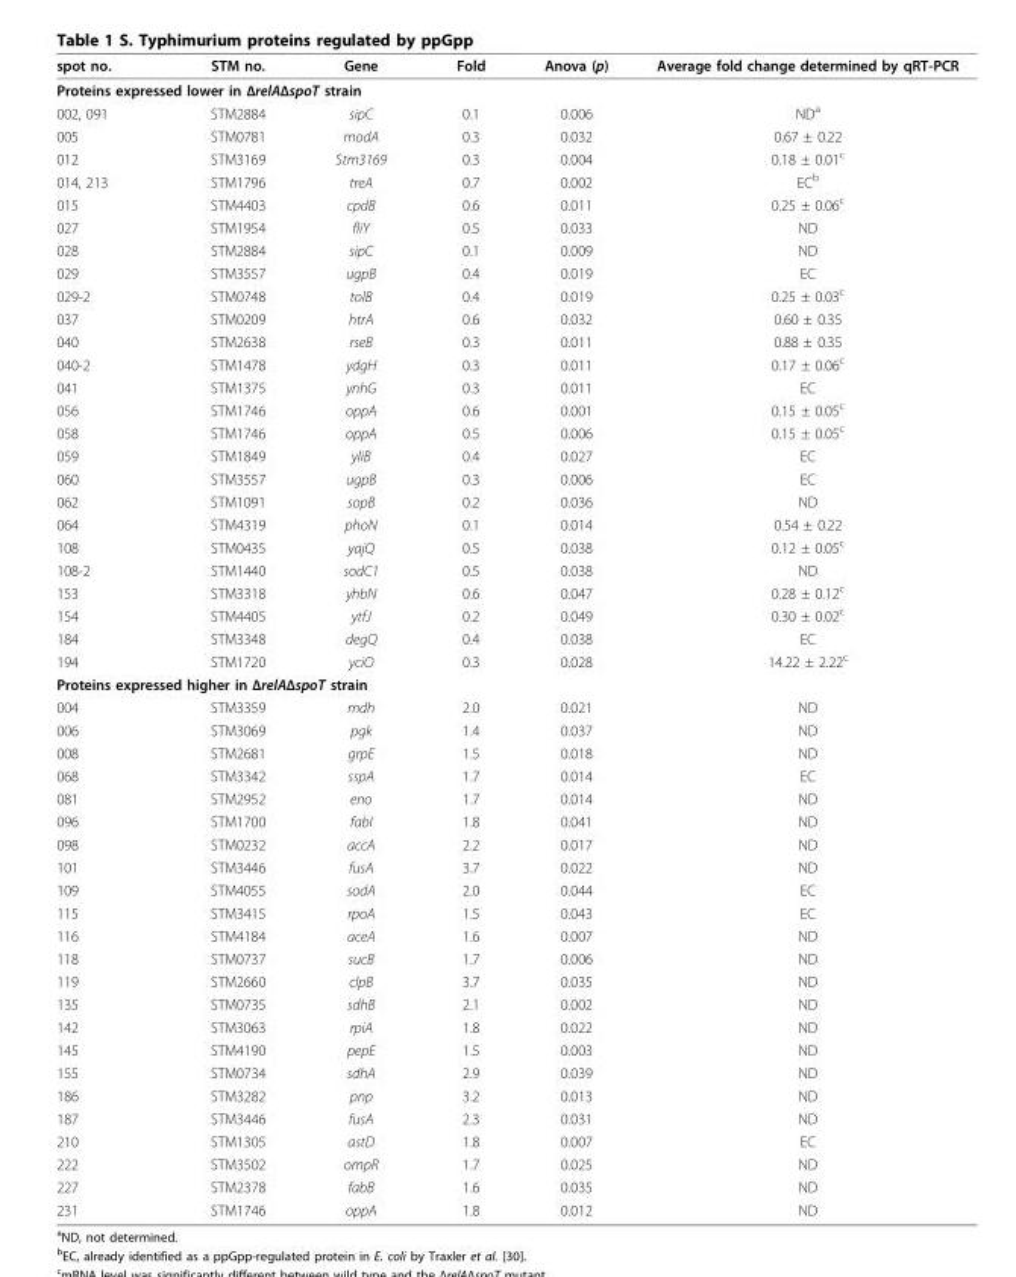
<table><thead><tr><td>spot no.</td><td>STM no.</td><td>Gene</td><td>Fold</td><td>Anova (p)</td><td>Average fold change determined by qRT-PCR</td></tr></thead><tbody><tr><td colspan="6">Proteins expressed lower in ΔrelAΔspoT strain</td></tr><tr><td>002, 091</td><td>STM2884</td><td>sipC</td><td>0.1</td><td>0.006</td><td>ND<sup>a</sup></td></tr><tr><td>005</td><td>STM0781</td><td>modA</td><td>0.3</td><td>0.032</td><td>0.67 ± 0.22</td></tr><tr><td>012</td><td>STM3169</td><td>Stm3169</td><td>0.3</td><td>0.004</td><td>0.18 ± 0.01<sup>c</sup></td></tr><tr><td>014, 213</td><td>STM1796</td><td>treA</td><td>0.7</td><td>0.002</td><td>EC<sup>b</sup></td></tr><tr><td>015</td><td>STM4403</td><td>cpdB</td><td>0.6</td><td>0.011</td><td>0.25 ± 0.06<sup>c</sup></td></tr><tr><td>027</td><td>STM1954</td><td>fliY</td><td>0.5</td><td>0.033</td><td>ND</td></tr><tr><td>028</td><td>STM2884</td><td>sipC</td><td>0.1</td><td>0.009</td><td>ND</td></tr><tr><td>029</td><td>STM3557</td><td>ugpB</td><td>0.4</td><td>0.019</td><td>EC</td></tr><tr><td>029-2</td><td>STM0748</td><td>tolB</td><td>0.4</td><td>0.019</td><td>0.25 ± 0.03<sup>c</sup></td></tr><tr><td>037</td><td>STM0209</td><td>htrA</td><td>0.6</td><td>0.032</td><td>0.60 ± 0.35</td></tr><tr><td>040</td><td>STM2638</td><td>rseB</td><td>0.3</td><td>0.011</td><td>0.88 ± 0.35</td></tr><tr><td>040-2</td><td>STM1478</td><td>ydgH</td><td>0.3</td><td>0.011</td><td>0.17 ± 0.06<sup>c</sup></td></tr><tr><td>041</td><td>STM1375</td><td>ynhG</td><td>0.3</td><td>0.011</td><td>EC</td></tr><tr><td>056</td><td>STM1746</td><td>oppA</td><td>0.6</td><td>0.001</td><td>0.15 ± 0.05<sup>c</sup></td></tr><tr><td>058</td><td>STM1746</td><td>oppA</td><td>0.5</td><td>0.006</td><td>0.15 ± 0.05<sup>c</sup></td></tr><tr><td>059</td><td>STM1849</td><td>yliB</td><td>0.4</td><td>0.027</td><td>EC</td></tr><tr><td>060</td><td>STM3557</td><td>ugpB</td><td>0.3</td><td>0.006</td><td>EC</td></tr><tr><td>062</td><td>STM1091</td><td>sopB</td><td>0.2</td><td>0.036</td><td>ND</td></tr><tr><td>064</td><td>STM4319</td><td>phoN</td><td>0.1</td><td>0.014</td><td>0.54 ± 0.22</td></tr><tr><td>108</td><td>STM0435</td><td>yajQ</td><td>0.5</td><td>0.038</td><td>0.12 ± 0.05<sup>c</sup></td></tr><tr><td>108-2</td><td>STM1440</td><td>sodC1</td><td>0.5</td><td>0.038</td><td>ND</td></tr><tr><td>153</td><td>STM3318</td><td>yhbN</td><td>0.6</td><td>0.047</td><td>0.28 ± 0.12<sup>c</sup></td></tr><tr><td>154</td><td>STM4405</td><td>ytfJ</td><td>0.2</td><td>0.049</td><td>0.30 ± 0.02<sup>c</sup></td></tr><tr><td>184</td><td>STM3348</td><td>degQ</td><td>0.4</td><td>0.038</td><td>EC</td></tr><tr><td>194</td><td>STM1720</td><td>yciO</td><td>0.3</td><td>0.028</td><td>14.22 ± 2.22<sup>c</sup></td></tr><tr><td colspan="6">Proteins expressed higher in ΔrelAΔspoT strain</td></tr><tr><td>004</td><td>STM3359</td><td>mdh</td><td>2.0</td><td>0.021</td><td>ND</td></tr><tr><td>006</td><td>STM3069</td><td>pgk</td><td>1.4</td><td>0.037</td><td>ND</td></tr><tr><td>008</td><td>STM2681</td><td>grpE</td><td>1.5</td><td>0.018</td><td>ND</td></tr><tr><td>068</td><td>STM3342</td><td>sspA</td><td>1.7</td><td>0.014</td><td>EC</td></tr><tr><td>081</td><td>STM2952</td><td>eno</td><td>1.7</td><td>0.014</td><td>ND</td></tr><tr><td>096</td><td>STM1700</td><td>fabI</td><td>1.8</td><td>0.041</td><td>ND</td></tr><tr><td>098</td><td>STM0232</td><td>accA</td><td>2.2</td><td>0.017</td><td>ND</td></tr><tr><td>101</td><td>STM3446</td><td>fusA</td><td>3.7</td><td>0.022</td><td>ND</td></tr><tr><td>109</td><td>STM4055</td><td>sodA</td><td>2.0</td><td>0.044</td><td>EC</td></tr><tr><td>115</td><td>STM3415</td><td>rpoA</td><td>1.5</td><td>0.043</td><td>EC</td></tr><tr><td>116</td><td>STM4184</td><td>aceA</td><td>1.6</td><td>0.007</td><td>ND</td></tr><tr><td>118</td><td>STM0737</td><td>sucB</td><td>1.7</td><td>0.006</td><td>ND</td></tr><tr><td>119</td><td>STM2660</td><td>clpB</td><td>3.7</td><td>0.035</td><td>ND</td></tr><tr><td>135</td><td>STM0735</td><td>sdhB</td><td>2.1</td><td>0.002</td><td>ND</td></tr><tr><td>142</td><td>STM3063</td><td>rpiA</td><td>1.8</td><td>0.022</td><td>ND</td></tr><tr><td>145</td><td>STM4190</td><td>pepE</td><td>1.5</td><td>0.003</td><td>ND</td></tr><tr><td>155</td><td>STM0734</td><td>sdhA</td><td>2.9</td><td>0.039</td><td>ND</td></tr><tr><td>186</td><td>STM3282</td><td>pnp</td><td>3.2</td><td>0.013</td><td>ND</td></tr><tr><td>187</td><td>STM3446</td><td>fusA</td><td>2.3</td><td>0.031</td><td>ND</td></tr><tr><td>210</td><td>STM1305</td><td>astD</td><td>1.8</td><td>0.007</td><td>EC</td></tr><tr><td>222</td><td>STM3502</td><td>ompR</td><td>1.7</td><td>0.025</td><td>ND</td></tr><tr><td>227</td><td>STM2378</td><td>fabB</td><td>1.6</td><td>0.035</td><td>ND</td></tr><tr><td>231</td><td>STM1746</td><td>oppA</td><td>1.8</td><td>0.012</td><td>ND</td></tr></tbody></table>